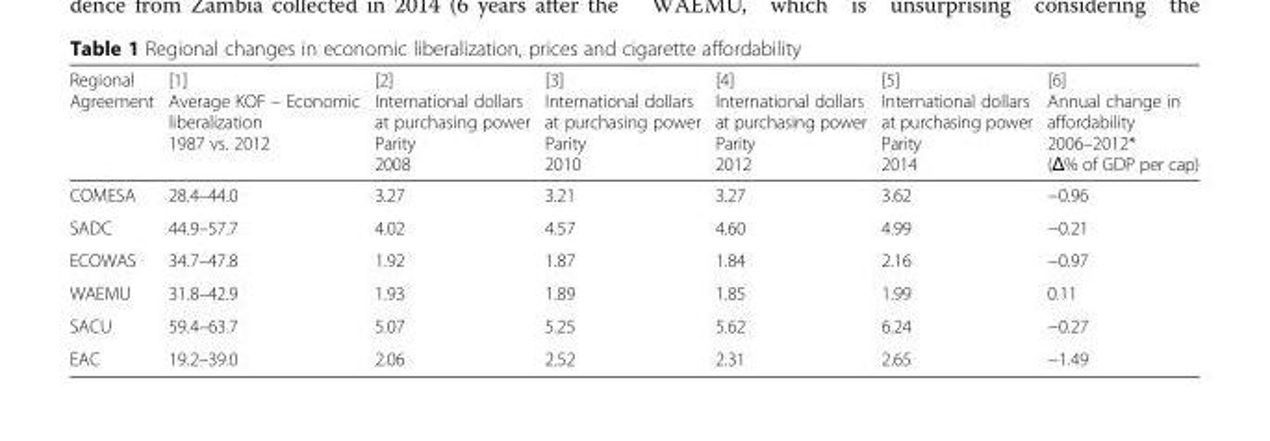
<table><thead><tr><td>Regional Agreement</td><td>[1] Average KOF – Economic liberalization 1987 vs. 2012</td><td>[2] International dollars at purchasing power Parity 2008</td><td>[3] International dollars at purchasing power Parity 2010</td><td>[4] International dollars at purchasing power Parity 2012</td><td>[5] International dollars at purchasing power Parity 2014</td><td>[6] Annual change in affordability 2006–2012* (Δ% of GDP per cap)</td></tr></thead><tbody><tr><td>COMESA</td><td>28.4–44.0</td><td>3.27</td><td>3.21</td><td>3.27</td><td>3.62</td><td>−0.96</td></tr><tr><td>SADC</td><td>44.9–57.7</td><td>4.02</td><td>4.57</td><td>4.60</td><td>4.99</td><td>−0.21</td></tr><tr><td>ECOWAS</td><td>34.7–47.8</td><td>1.92</td><td>1.87</td><td>1.84</td><td>2.16</td><td>−0.97</td></tr><tr><td>WAEMU</td><td>31.8–42.9</td><td>1.93</td><td>1.89</td><td>1.85</td><td>1.99</td><td>0.11</td></tr><tr><td>SACU</td><td>59.4–63.7</td><td>5.07</td><td>5.25</td><td>5.62</td><td>6.24</td><td>−0.27</td></tr><tr><td>EAC</td><td>19.2–39.0</td><td>2.06</td><td>2.52</td><td>2.31</td><td>2.65</td><td>−1.49</td></tr></tbody></table>